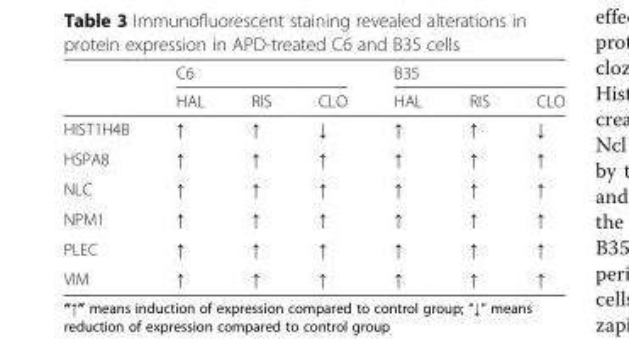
<table><thead><tr><td rowspan="2"></td><td colspan="3">C6</td><td colspan="3">B35</td></tr><tr><td>HAL</td><td>RIS</td><td>CLO</td><td>HAL</td><td>RIS</td><td>CLO</td></tr></thead><tbody><tr><td>HIST1H4B</td><td>↑</td><td>↑</td><td>↓</td><td>↑</td><td>↑</td><td>↓</td></tr><tr><td>HSPA8</td><td>↑</td><td>↑</td><td>↑</td><td>↑</td><td>↑</td><td>↑</td></tr><tr><td>NLC</td><td>↑</td><td>↑</td><td>↑</td><td>↑</td><td>↑</td><td>↑</td></tr><tr><td>NPM1</td><td>↑</td><td>↑</td><td>↑</td><td>↑</td><td>↑</td><td>↑</td></tr><tr><td>PLEC</td><td>↑</td><td>↑</td><td>↑</td><td>↑</td><td>↑</td><td>↑</td></tr><tr><td>VIM</td><td>↑</td><td>↑</td><td>↑</td><td>↑</td><td>↑</td><td>↑</td></tr></tbody></table>